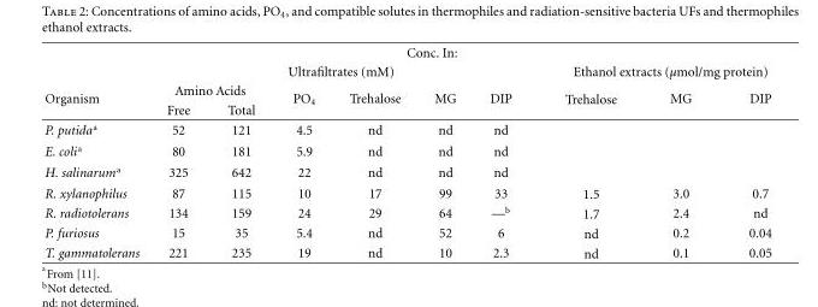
<table><thead><tr><td rowspan="4">Organism</td><td colspan="9">Conc. In:</td></tr><tr><td colspan="6">Ultrafiltrates (mM)</td><td colspan="3">Ethanol extracts (µmol/mg protein)</td></tr><tr><td colspan="2">Amino Acids</td><td rowspan="2">PO<sub>4</sub></td><td rowspan="2">Trehalose</td><td rowspan="2">MG</td><td rowspan="2">DIP</td><td rowspan="2">Trehalose</td><td rowspan="2">MG</td><td rowspan="2">DIP</td></tr><tr><td>Free</td><td>Total</td></tr></thead><tbody><tr><td>P. putida<sup>a</sup></td><td>52</td><td>121</td><td>4.5</td><td>nd</td><td>nd</td><td>nd</td><td></td><td></td><td></td></tr><tr><td>E. coli<sup>a</sup></td><td>80</td><td>181</td><td>5.9</td><td>nd</td><td>nd</td><td>nd</td><td></td><td></td><td></td></tr><tr><td>H. salinarum<sup>a</sup></td><td>325</td><td>642</td><td>22</td><td>nd</td><td>nd</td><td>nd</td><td></td><td></td><td></td></tr><tr><td>R. xylanophilus</td><td>87</td><td>115</td><td>10</td><td>17</td><td>99</td><td>33</td><td>1.5</td><td>3.0</td><td>0.7</td></tr><tr><td>R. radiotolerans</td><td>134</td><td>159</td><td>24</td><td>29</td><td>64</td><td>—<sup>b</sup></td><td>1.7</td><td>2.4</td><td>nd</td></tr><tr><td>P. furiosus</td><td>15</td><td>35</td><td>5.4</td><td>nd</td><td>52</td><td>6</td><td>nd</td><td>0.2</td><td>0.04</td></tr><tr><td>T. gammatolerans</td><td>221</td><td>235</td><td>19</td><td>nd</td><td>10</td><td>2.3</td><td>nd</td><td>0.1</td><td>0.05</td></tr></tbody></table>